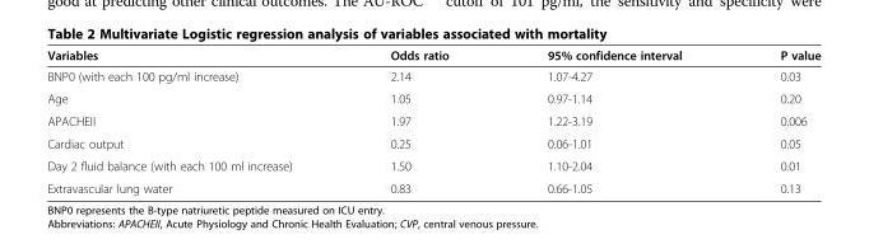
<table><thead><tr><td>Variables</td><td>Odds ratio</td><td>95% confidence interval</td><td>P value</td></tr></thead><tbody><tr><td>BNP0 (with each 100 pg/ml increase)</td><td>2.14</td><td>1.07-4.27</td><td>0.03</td></tr><tr><td>Age</td><td>1.05</td><td>0.97-1.14</td><td>0.20</td></tr><tr><td>APACHEII</td><td>1.97</td><td>1.22-3.19</td><td>0.006</td></tr><tr><td>Cardiac output</td><td>0.25</td><td>0.06-1.01</td><td>0.05</td></tr><tr><td>Day 2 fluid balance (with each 100 ml increase)</td><td>1.50</td><td>1.10-2.04</td><td>0.01</td></tr><tr><td>Extravascular lung water</td><td>0.83</td><td>0.66-1.05</td><td>0.13</td></tr></tbody></table>